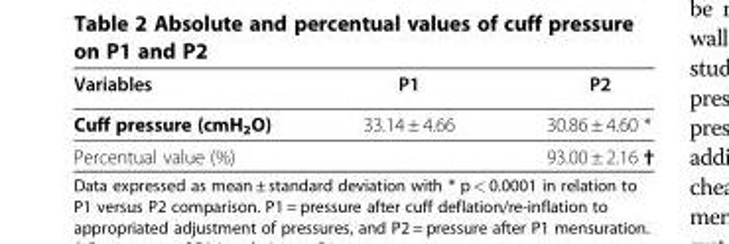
<table><thead><tr><td>Variables</td><td>P1</td><td>P2</td></tr></thead><tbody><tr><td>Cuff pressure (cmH<sub>2</sub>O)</td><td>33.14 ± 4.66</td><td>30.86 ± 4.60 *</td></tr><tr><td>Percentual value (%)</td><td></td><td>93.00 ± 2.16 †</td></tr></tbody></table>